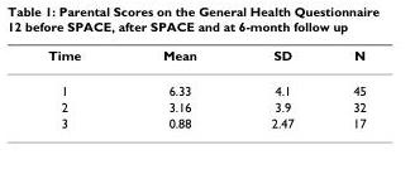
<table><thead><tr><td>Time</td><td>Mean</td><td>SD</td><td>N</td></tr></thead><tbody><tr><td>1</td><td>6.33</td><td>4.1</td><td>45</td></tr><tr><td>2</td><td>3.16</td><td>3.9</td><td>32</td></tr><tr><td>3</td><td>0.88</td><td>2.47</td><td>17</td></tr></tbody></table>